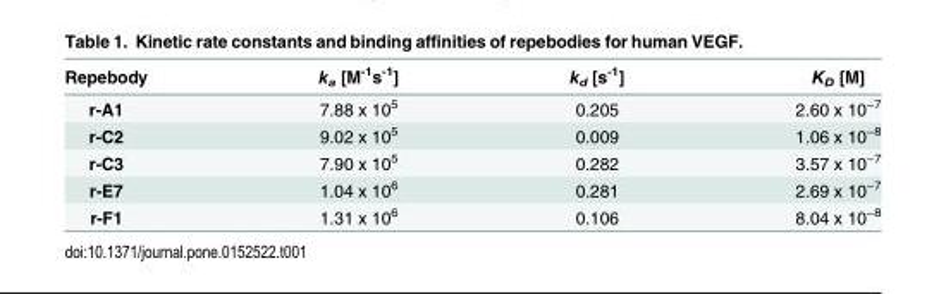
<table><thead><tr><td>Repebody</td><td>k<sub>a</sub> [M<sup>-1</sup>s<sup>-1</sup>]</td><td>k<sub>d</sub> [s<sup>-1</sup>]</td><td>K<sub>D</sub> [M]</td></tr></thead><tbody><tr><td>r-A1</td><td>7.88 x 10<sup>5</sup></td><td>0.205</td><td>2.60 x 10<sup>−7</sup></td></tr><tr><td>r-C2</td><td>9.02 x 10<sup>5</sup></td><td>0.009</td><td>1.06 x 10<sup>−8</sup></td></tr><tr><td>r-C3</td><td>7.90 x 10<sup>5</sup></td><td>0.282</td><td>3.57 x 10<sup>−7</sup></td></tr><tr><td>r-E7</td><td>1.04 x 10<sup>6</sup></td><td>0.281</td><td>2.69 x 10<sup>−7</sup></td></tr><tr><td>r-F1</td><td>1.31 x 10<sup>6</sup></td><td>0.106</td><td>8.04 x 10<sup>−8</sup></td></tr></tbody></table>